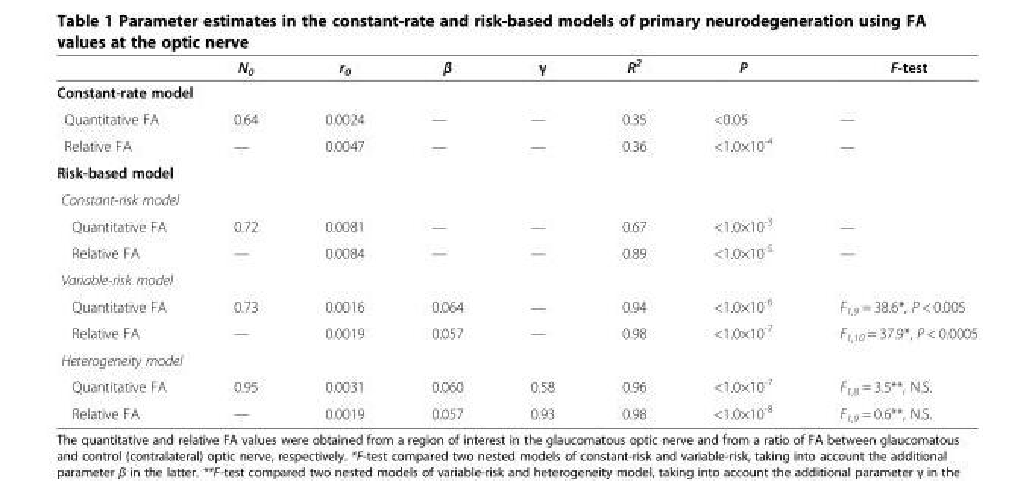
<table><thead><tr><td></td><td>N<sub>0</sub></td><td>r<sub>0</sub></td><td>β</td><td>γ</td><td>R<sup>2</sup></td><td>P</td><td>F-test</td></tr></thead><tbody><tr><td colspan="8">Constant-rate model</td></tr><tr><td>Quantitative FA</td><td>0.64</td><td>0.0024</td><td>—</td><td>—</td><td>0.35</td><td>&lt;0.05</td><td>—</td></tr><tr><td>Relative FA</td><td>—</td><td>0.0047</td><td>—</td><td>—</td><td>0.36</td><td>&lt;1.0×10<sup>-4</sup></td><td>—</td></tr><tr><td colspan="8">Risk-based model</td></tr><tr><td colspan="8">Constant-risk model</td></tr><tr><td>Quantitative FA</td><td>0.72</td><td>0.0081</td><td>—</td><td>—</td><td>0.67</td><td>&lt;1.0×10<sup>-3</sup></td><td>—</td></tr><tr><td>Relative FA</td><td>—</td><td>0.0084</td><td>—</td><td>—</td><td>0.89</td><td>&lt;1.0×10<sup>-5</sup></td><td>—</td></tr><tr><td colspan="8">Variable-risk model</td></tr><tr><td>Quantitative FA</td><td>0.73</td><td>0.0016</td><td>0.064</td><td>—</td><td>0.94</td><td>&lt;1.0×10<sup>-6</sup></td><td>F<sub>1,9</sub> = 38.6*, P &lt; 0.005</td></tr><tr><td>Relative FA</td><td>—</td><td>0.0019</td><td>0.057</td><td>—</td><td>0.98</td><td>&lt;1.0×10<sup>-7</sup></td><td>F<sub>1,10</sub> = 37.9*, P &lt; 0.0005</td></tr><tr><td colspan="8">Heterogeneity model</td></tr><tr><td>Quantitative FA</td><td>0.95</td><td>0.0031</td><td>0.060</td><td>0.58</td><td>0.96</td><td>&lt;1.0×10<sup>-7</sup></td><td>F<sub>1,8</sub> = 3.5**, N.S.</td></tr><tr><td>Relative FA</td><td>—</td><td>0.0019</td><td>0.057</td><td>0.93</td><td>0.98</td><td>&lt;1.0×10<sup>-8</sup></td><td>F<sub>1,9</sub> = 0.6**, N.S.</td></tr></tbody></table>